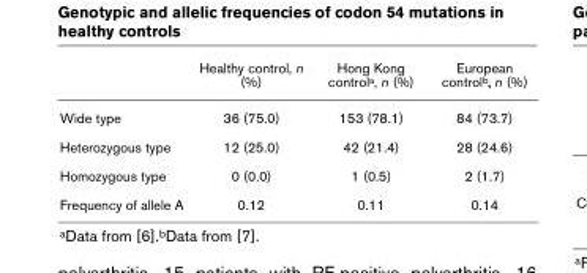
<table><thead><tr><td></td><td>Healthy control, n (%)</td><td>Hong Kong controla, n (%)</td><td>European controlb, n (%)</td></tr></thead><tbody><tr><td>Wide type</td><td>36 (75.0)</td><td>153 (78.1)</td><td>84 (73.7)</td></tr><tr><td>Heterozygous type</td><td>12 (25.0)</td><td>42 (21.4)</td><td>28 (24.6)</td></tr><tr><td>Homozygous type</td><td>0 (0.0)</td><td>1 (0.5)</td><td>2 (1.7)</td></tr><tr><td>Frequency of allele A</td><td>0.12</td><td>0.11</td><td>0.14</td></tr></tbody></table>